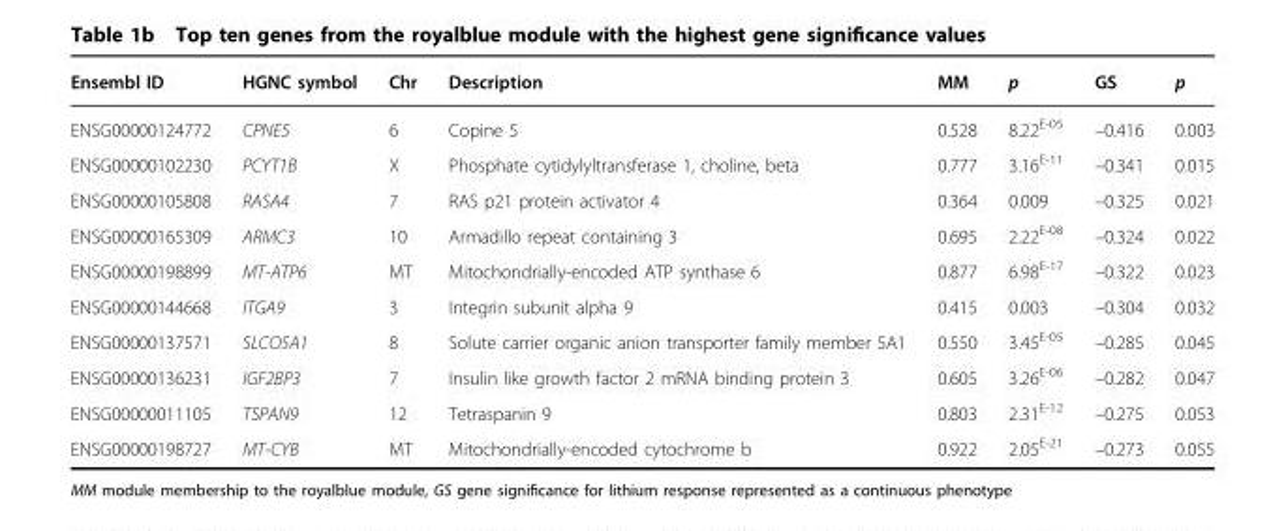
<table><thead><tr><td>Ensembl ID</td><td>HGNC symbol</td><td>Chr</td><td>Description</td><td>MM</td><td>p</td><td>GS</td><td>p</td></tr></thead><tbody><tr><td>ENSG00000124772</td><td>CPNE5</td><td>6</td><td>Copine 5</td><td>0.528</td><td>8.22<sup>E-05</sup></td><td>–0.416</td><td>0.003</td></tr><tr><td>ENSG00000102230</td><td>PCYT1B</td><td>X</td><td>Phosphate cytidylyltransferase 1, choline, beta</td><td>0.777</td><td>3.16<sup>E-11</sup></td><td>–0.341</td><td>0.015</td></tr><tr><td>ENSG00000105808</td><td>RASA4</td><td>7</td><td>RAS p21 protein activator 4</td><td>0.364</td><td>0.009</td><td>–0.325</td><td>0.021</td></tr><tr><td>ENSG00000165309</td><td>ARMC3</td><td>10</td><td>Armadillo repeat containing 3</td><td>0.695</td><td>2.22<sup>E-08</sup></td><td>–0.324</td><td>0.022</td></tr><tr><td>ENSG00000198899</td><td>MT-ATP6</td><td>MT</td><td>Mitochondrially-encoded ATP synthase 6</td><td>0.877</td><td>6.98<sup>E-17</sup></td><td>–0.322</td><td>0.023</td></tr><tr><td>ENSG00000144668</td><td>ITGA9</td><td>3</td><td>Integrin subunit alpha 9</td><td>0.415</td><td>0.003</td><td>–0.304</td><td>0.032</td></tr><tr><td>ENSG00000137571</td><td>SLCO5A1</td><td>8</td><td>Solute carrier organic anion transporter family member 5A1</td><td>0.550</td><td>3.45<sup>E-05</sup></td><td>–0.285</td><td>0.045</td></tr><tr><td>ENSG00000136231</td><td>IGF2BP3</td><td>7</td><td>Insulin like growth factor 2 mRNA binding protein 3</td><td>0.605</td><td>3.26<sup>E-06</sup></td><td>–0.282</td><td>0.047</td></tr><tr><td>ENSG00000011105</td><td>TSPAN9</td><td>12</td><td>Tetraspanin 9</td><td>0.803</td><td>2.31<sup>E-12</sup></td><td>–0.275</td><td>0.053</td></tr><tr><td>ENSG00000198727</td><td>MT-CYB</td><td>MT</td><td>Mitochondrially-encoded cytochrome b</td><td>0.922</td><td>2.05<sup>E-21</sup></td><td>–0.273</td><td>0.055</td></tr></tbody></table>